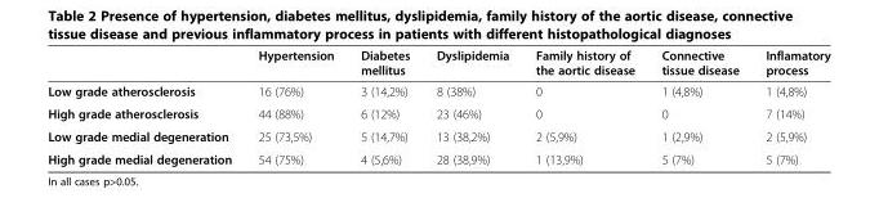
<table><thead><tr><td></td><td>Hypertension</td><td>Diabetes mellitus</td><td>Dyslipidemia</td><td>Family history of the aortic disease</td><td>Connective tissue disease</td><td>Inflamatory process</td></tr></thead><tbody><tr><td>Low grade atherosclerosis</td><td>16 (76%)</td><td>3 (14,2%)</td><td>8 (38%)</td><td>0</td><td>1 (4,8%)</td><td>1 (4,8%)</td></tr><tr><td>High grade atherosclerosis</td><td>44 (88%)</td><td>6 (12%)</td><td>23 (46%)</td><td>0</td><td>0</td><td>7 (14%)</td></tr><tr><td>Low grade medial degeneration</td><td>25 (73,5%)</td><td>5 (14,7%)</td><td>13 (38,2%)</td><td>2 (5,9%)</td><td>1 (2,9%)</td><td>2 (5,9%)</td></tr><tr><td>High grade medial degeneration</td><td>54 (75%)</td><td>4 (5,6%)</td><td>28 (38,9%)</td><td>1 (13,9%)</td><td>5 (7%)</td><td>5 (7%)</td></tr></tbody></table>